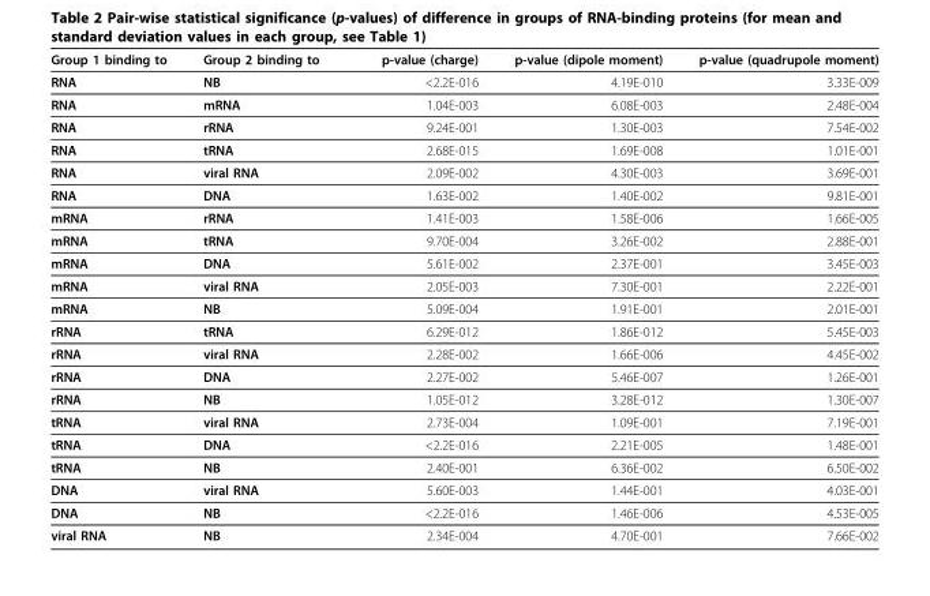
<table><thead><tr><td>Group 1 binding to</td><td>Group 2 binding to</td><td>p-value (charge)</td><td>p-value (dipole moment)</td><td>p-value (quadrupole moment)</td></tr></thead><tbody><tr><td>RNA</td><td>NB</td><td>&lt;2.2E-016</td><td>4.19E-010</td><td>3.33E-009</td></tr><tr><td>RNA</td><td>mRNA</td><td>1.04E-003</td><td>6.08E-003</td><td>2.48E-004</td></tr><tr><td>RNA</td><td>rRNA</td><td>9.24E-001</td><td>1.30E-003</td><td>7.54E-002</td></tr><tr><td>RNA</td><td>tRNA</td><td>2.68E-015</td><td>1.69E-008</td><td>1.01E-001</td></tr><tr><td>RNA</td><td>viral RNA</td><td>2.09E-002</td><td>4.30E-003</td><td>3.69E-001</td></tr><tr><td>RNA</td><td>DNA</td><td>1.63E-002</td><td>1.40E-002</td><td>9.81E-001</td></tr><tr><td>mRNA</td><td>rRNA</td><td>1.41E-003</td><td>1.58E-006</td><td>1.66E-005</td></tr><tr><td>mRNA</td><td>tRNA</td><td>9.70E-004</td><td>3.26E-002</td><td>2.88E-001</td></tr><tr><td>mRNA</td><td>DNA</td><td>5.61E-002</td><td>2.37E-001</td><td>3.45E-003</td></tr><tr><td>mRNA</td><td>viral RNA</td><td>2.05E-003</td><td>7.30E-001</td><td>2.22E-001</td></tr><tr><td>mRNA</td><td>NB</td><td>5.09E-004</td><td>1.91E-001</td><td>2.01E-001</td></tr><tr><td>rRNA</td><td>tRNA</td><td>6.29E-012</td><td>1.86E-012</td><td>5.45E-003</td></tr><tr><td>rRNA</td><td>viral RNA</td><td>2.28E-002</td><td>1.66E-006</td><td>4.45E-002</td></tr><tr><td>rRNA</td><td>DNA</td><td>2.27E-002</td><td>5.46E-007</td><td>1.26E-001</td></tr><tr><td>rRNA</td><td>NB</td><td>1.05E-012</td><td>3.28E-012</td><td>1.30E-007</td></tr><tr><td>tRNA</td><td>viral RNA</td><td>2.73E-004</td><td>1.09E-001</td><td>7.19E-001</td></tr><tr><td>tRNA</td><td>DNA</td><td>&lt;2.2E-016</td><td>2.21E-005</td><td>1.48E-001</td></tr><tr><td>tRNA</td><td>NB</td><td>2.40E-001</td><td>6.36E-002</td><td>6.50E-002</td></tr><tr><td>DNA</td><td>viral RNA</td><td>5.60E-003</td><td>1.44E-001</td><td>4.03E-001</td></tr><tr><td>DNA</td><td>NB</td><td>&lt;2.2E-016</td><td>1.46E-006</td><td>4.53E-005</td></tr><tr><td>viral RNA</td><td>NB</td><td>2.34E-004</td><td>4.70E-001</td><td>7.66E-002</td></tr></tbody></table>